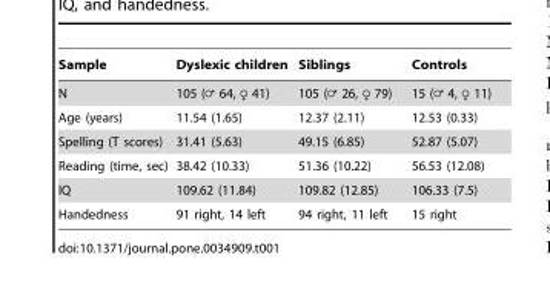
<table><thead><tr><td>Sample</td><td>Dyslexic children</td><td>Siblings</td><td>Controls</td></tr></thead><tbody><tr><td>N</td><td>105 (= 64, R 41)</td><td>105 (= 26, R 79)</td><td>15 (= 4, R 11)</td></tr><tr><td>Age (years)</td><td>11.54 (1.65)</td><td>12.37 (2.11)</td><td>12.53 (0.33)</td></tr><tr><td>Spelling (T scores)</td><td>31.41 (5.63)</td><td>49.15 (6.85)</td><td>52.87 (5.07)</td></tr><tr><td>Reading (time, sec)</td><td>38.42 (10.33)</td><td>51.36 (10.22)</td><td>56.53 (12.08)</td></tr><tr><td>IQ</td><td>109.62 (11.84)</td><td>109.82 (12.85)</td><td>106.33 (7.5)</td></tr><tr><td>Handedness</td><td>91 right, 14 left</td><td>94 right, 11 left</td><td>15 right</td></tr></tbody></table>